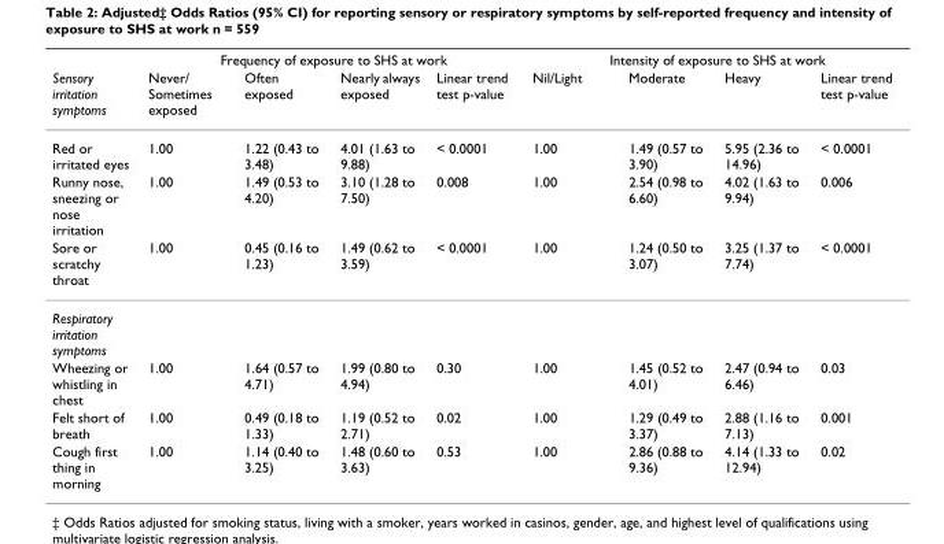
<table><thead><tr><td rowspan="2">Sensory irritation symptoms</td><td colspan="4">Frequency of exposure to SHS at work</td><td colspan="4">Intensity of exposure to SHS at work</td></tr><tr><td>Never/ Sometimes exposed</td><td>Often exposed</td><td>Nearly always exposed</td><td>Linear trend test p-value</td><td>Nil/Light</td><td>Moderate</td><td>Heavy</td><td>Linear trend test p-value</td></tr></thead><tbody><tr><td>Red or irritated eyes</td><td>1.00</td><td>1.22 (0.43 to 3.48)</td><td>4.01 (1.63 to 9.88)</td><td>&lt; 0.0001</td><td>1.00</td><td>1.49 (0.57 to 3.90)</td><td>5.95 (2.36 to 14.96)</td><td>&lt; 0.0001</td></tr><tr><td>Runny nose, sneezing or nose irritation</td><td>1.00</td><td>1.49 (0.53 to 4.20)</td><td>3.10 (1.28 to 7.50)</td><td>0.008</td><td>1.00</td><td>2.54 (0.98 to 6.60)</td><td>4.02 (1.63 to 9.94)</td><td>0.006</td></tr><tr><td>Sore or scratchy throat</td><td>1.00</td><td>0.45 (0.16 to 1.23)</td><td>1.49 (0.62 to 3.59)</td><td>&lt; 0.0001</td><td>1.00</td><td>1.24 (0.50 to 3.07)</td><td>3.25 (1.37 to 7.74)</td><td>&lt; 0.0001</td></tr><tr><td colspan="9">Respiratory irritation symptoms</td></tr><tr><td>Wheezing or whistling in chest</td><td>1.00</td><td>1.64 (0.57 to 4.71)</td><td>1.99 (0.80 to 4.94)</td><td>0.30</td><td>1.00</td><td>1.45 (0.52 to 4.01)</td><td>2.47 (0.94 to 6.46)</td><td>0.03</td></tr><tr><td>Felt short of breath</td><td>1.00</td><td>0.49 (0.18 to 1.33)</td><td>1.19 (0.52 to 2.71)</td><td>0.02</td><td>1.00</td><td>1.29 (0.49 to 3.37)</td><td>2.88 (1.16 to 7.13)</td><td>0.001</td></tr><tr><td>Cough first thing in morning</td><td>1.00</td><td>1.14 (0.40 to 3.25)</td><td>1.48 (0.60 to 3.63)</td><td>0.53</td><td>1.00</td><td>2.86 (0.88 to 9.36)</td><td>4.14 (1.33 to 12.94)</td><td>0.02</td></tr></tbody></table>